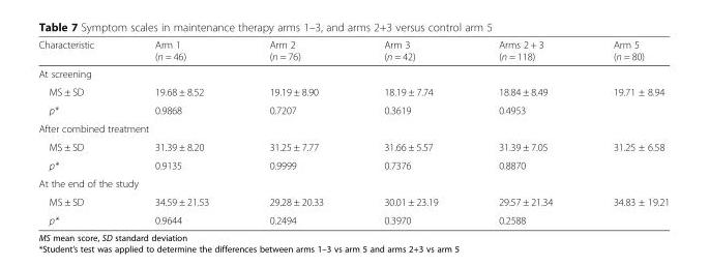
<table><thead><tr><td>Characteristic</td><td>Arm 1 (n = 46)</td><td>Arm 2 (n = 76)</td><td>Arm 3 (n = 42)</td><td>Arms 2 + 3 (n = 118)</td><td>Arm 5 (n = 80)</td></tr></thead><tbody><tr><td colspan="6">At screening</td></tr><tr><td>MS ± SD</td><td>19.68 ± 8.52</td><td>19.19 ± 8.90</td><td>18.19 ± 7.74</td><td>18.84 ± 8.49</td><td>19.71 ± 8.94</td></tr><tr><td>p*</td><td>0.9868</td><td>0.7207</td><td>0.3619</td><td>0.4953</td><td></td></tr><tr><td colspan="6">After combined treatment</td></tr><tr><td>MS ± SD</td><td>31.39 ± 8.20</td><td>31.25 ± 7.77</td><td>31.66 ± 5.57</td><td>31.39 ± 7.05</td><td>31.25 ± 6.58</td></tr><tr><td>p*</td><td>0.9135</td><td>0.9999</td><td>0.7376</td><td>0.8870</td><td></td></tr><tr><td colspan="6">At the end of the study</td></tr><tr><td>MS ± SD</td><td>34.59 ± 21.53</td><td>29.28 ± 20.33</td><td>30.01 ± 23.19</td><td>29.57 ± 21.34</td><td>34.83 ± 19.21</td></tr><tr><td>p*</td><td>0.9644</td><td>0.2494</td><td>0.3970</td><td>0.2588</td><td></td></tr></tbody></table>